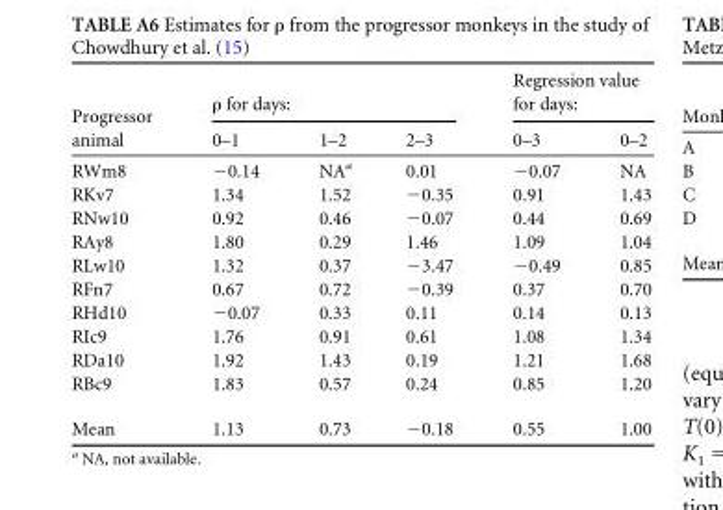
<table><thead><tr><td rowspan="2">Progressor animal</td><td colspan="3">ρ for days:</td><td colspan="2">Regression value for days:</td></tr><tr><td>0–1</td><td>1–2</td><td>2–3</td><td>0–3</td><td>0–2</td></tr></thead><tbody><tr><td>RWm8</td><td>−0.14</td><td>NA<sup>a</sup></td><td>0.01</td><td>−0.07</td><td>NA</td></tr><tr><td>RKv7</td><td>1.34</td><td>1.52</td><td>−0.35</td><td>0.91</td><td>1.43</td></tr><tr><td>RNw10</td><td>0.92</td><td>0.46</td><td>−0.07</td><td>0.44</td><td>0.69</td></tr><tr><td>RAy8</td><td>1.80</td><td>0.29</td><td>1.46</td><td>1.09</td><td>1.04</td></tr><tr><td>RLw10</td><td>1.32</td><td>0.37</td><td>−3.47</td><td>−0.49</td><td>0.85</td></tr><tr><td>RFn7</td><td>0.67</td><td>0.72</td><td>−0.39</td><td>0.37</td><td>0.70</td></tr><tr><td>RHd10</td><td>−0.07</td><td>0.33</td><td>0.11</td><td>0.14</td><td>0.13</td></tr><tr><td>RIc9</td><td>1.76</td><td>0.91</td><td>0.61</td><td>1.08</td><td>1.34</td></tr><tr><td>RDa10</td><td>1.92</td><td>1.43</td><td>0.19</td><td>1.21</td><td>1.68</td></tr><tr><td>RBc9</td><td>1.83</td><td>0.57</td><td>0.24</td><td>0.85</td><td>1.20</td></tr><tr><td>Mean</td><td>1.13</td><td>0.73</td><td>−0.18</td><td>0.55</td><td>1.00</td></tr></tbody></table>